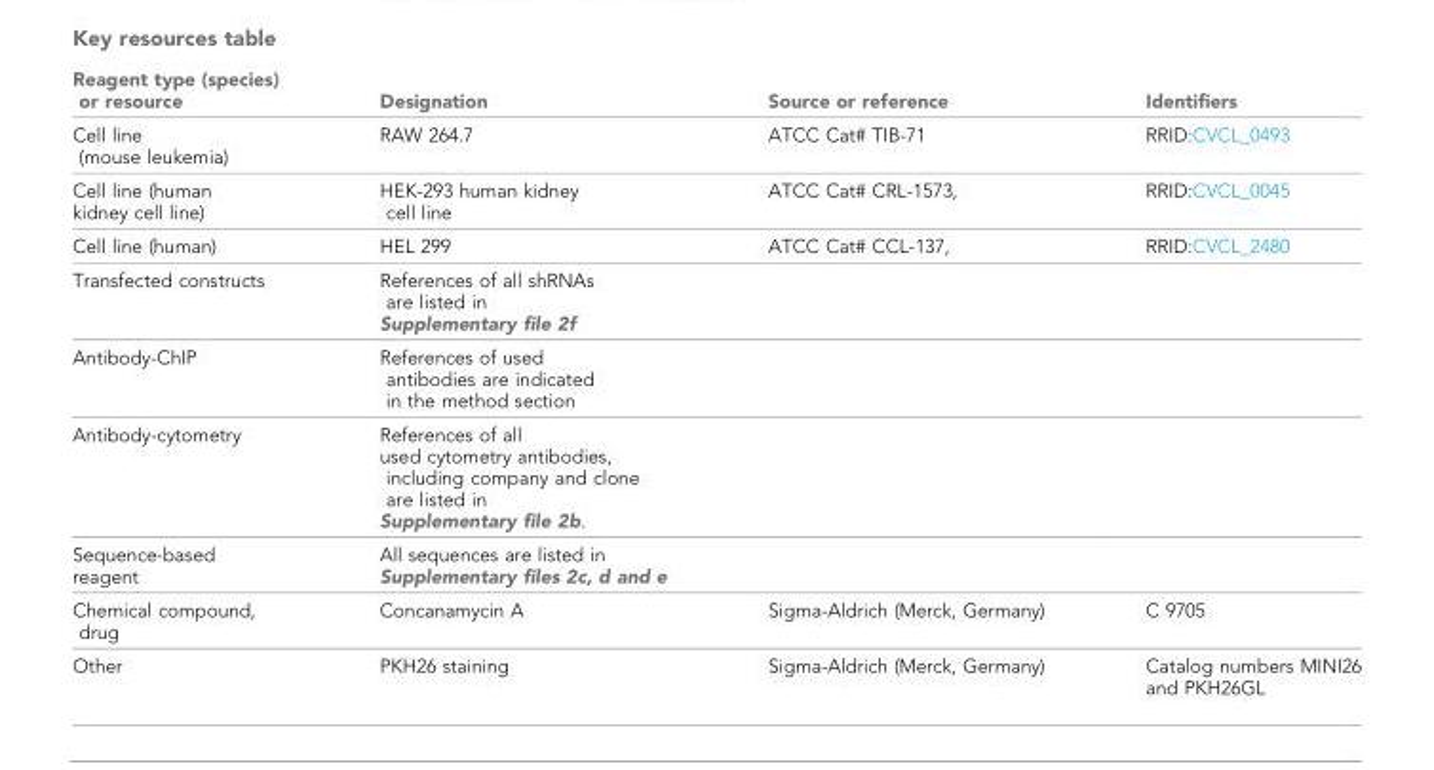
<table><thead><tr><td>Reagent type (species) or resource</td><td>Designation</td><td>Source or reference</td><td>Identifiers</td></tr></thead><tbody><tr><td>Cell line (mouse leukemia)</td><td>RAW 264.7</td><td>ATCC Cat# TIB-71</td><td>RRID:CVCL_0493</td></tr><tr><td>Cell line (human kidney cell line)</td><td>HEK-293 human kidney cell line</td><td>ATCC Cat# CRL-1573,</td><td>RRID:CVCL_0045</td></tr><tr><td>Cell line (human)</td><td>HEL 299</td><td>ATCC Cat# CCL-137,</td><td>RRID:CVCL_2480</td></tr><tr><td>Transfected constructs</td><td>References of all shRNAs are listed in Supplementary file 2f</td><td></td><td></td></tr><tr><td>Antibody-ChIP</td><td>References of used antibodies are indicated in the method section</td><td></td><td></td></tr><tr><td>Antibody-cytometry</td><td>References of all used cytometry antibodies, including company and clone are listed in Supplementary file 2b.</td><td></td><td></td></tr><tr><td>Sequence-based reagent</td><td>All sequences are listed in Supplementary files 2c, d and e</td><td></td><td></td></tr><tr><td>Chemical compound, drug</td><td>Concanamycin A</td><td>Sigma-Aldrich (Merck, Germany)</td><td>C 9705</td></tr><tr><td>Other</td><td>PKH26 staining</td><td>Sigma-Aldrich (Merck, Germany)</td><td>Catalog numbers MINI26 and PKH26GL</td></tr></tbody></table>